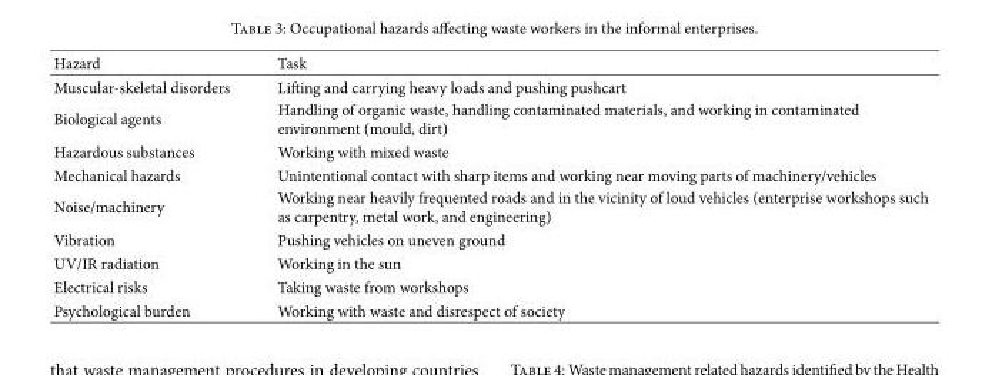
<table><thead><tr><td>Hazard</td><td>Task</td></tr></thead><tbody><tr><td>Muscular-skeletal disorders</td><td>Lifting and carrying heavy loads and pushing pushcart</td></tr><tr><td>Biological agents</td><td>Handling of organic waste, handling contaminated materials, and working in contaminated environment (mould, dirt)</td></tr><tr><td>Hazardous substances</td><td>Working with mixed waste</td></tr><tr><td>Mechanical hazards</td><td>Unintentional contact with sharp items and working near moving parts of machinery/vehicles</td></tr><tr><td>Noise/machinery</td><td>Working near heavily frequented roads and in the vicinity of loud vehicles (enterprise workshops such as carpentry, metal work, and engineering)</td></tr><tr><td>Vibration</td><td>Pushing vehicles on uneven ground</td></tr><tr><td>UV/IR radiation</td><td>Working in the sun</td></tr><tr><td>Electrical risks</td><td>Taking waste from workshops</td></tr><tr><td>Psychological burden</td><td>Working with waste and disrespect of society</td></tr></tbody></table>